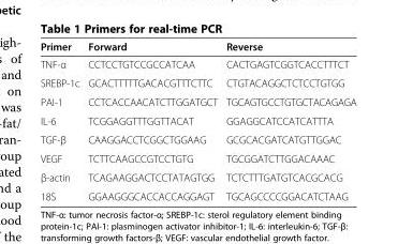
<table><thead><tr><td>Primer</td><td>Forward</td><td>Reverse</td></tr></thead><tbody><tr><td>TNF-α</td><td>CCTCCTGTCCGCCATCAA</td><td>CACTGAGTCGGTCACCTTTCT</td></tr><tr><td>SREBP-1c</td><td>GCACTTTTTGACACGTTTCTTC</td><td>CTGTACAGGCTCTCCTGTGG</td></tr><tr><td>PAI-1</td><td>CCTCACCAACATCTTGGATGCT</td><td>TGCAGTGCCTGTGCTACAGAGA</td></tr><tr><td>IL-6</td><td>TCGGAGGTTTGGTTACAT</td><td>GGAGGCATCCATCATTTA</td></tr><tr><td>TGF-β</td><td>CAAGGACCTCGGCTGGAAG</td><td>GCGCACGATCATGTTGGAC</td></tr><tr><td>VEGF</td><td>TCTTCAAGCCGTCCTGTG</td><td>TGCGGATCTTGGACAAAC</td></tr><tr><td>β-actin</td><td>TCAGAAGGACTCCTATAGTGG</td><td>TCTCTTTGATGTCACGCACG</td></tr><tr><td>18S</td><td>GGAAGGGCACCACCAGGAGT</td><td>TGCAGCCCCGGACATCTAAG</td></tr></tbody></table>